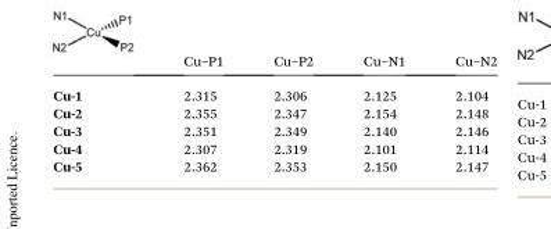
<table><thead><tr><td></td><td>Cu–P1</td><td>Cu–P2</td><td>Cu–N1</td><td>Cu–N2</td></tr></thead><tbody><tr><td>Cu-1</td><td>2.315</td><td>2.306</td><td>2.125</td><td>2.104</td></tr><tr><td>Cu-2</td><td>2.355</td><td>2.347</td><td>2.154</td><td>2.148</td></tr><tr><td>Cu-3</td><td>2.351</td><td>2.349</td><td>2.140</td><td>2.146</td></tr><tr><td>Cu-4</td><td>2.307</td><td>2.319</td><td>2.101</td><td>2.114</td></tr><tr><td>Cu-5</td><td>2.362</td><td>2.353</td><td>2.150</td><td>2.147</td></tr></tbody></table>